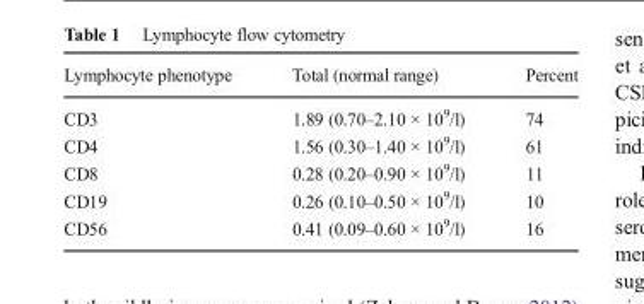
<table><thead><tr><td>Lymphocyte phenotype</td><td>Total (normal range)</td><td>Percent</td></tr></thead><tbody><tr><td>CD3</td><td>1.89 (0.70–2.10 × 10<sup>9</sup>/l)</td><td>74</td></tr><tr><td>CD4</td><td>1.56 (0.30–1.40 × 10<sup>9</sup>/l)</td><td>61</td></tr><tr><td>CD8</td><td>0.28 (0.20–0.90 × 10<sup>9</sup>/l)</td><td>11</td></tr><tr><td>CD19</td><td>0.26 (0.10–0.50 × 10<sup>9</sup>/l)</td><td>10</td></tr><tr><td>CD56</td><td>0.41 (0.09–0.60 × 10<sup>9</sup>/l)</td><td>16</td></tr></tbody></table>